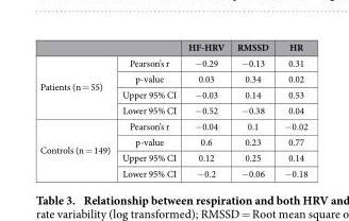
<table><thead><tr><td></td><td></td><td>HF-HRV</td><td>RMSSD</td><td>HR</td></tr></thead><tbody><tr><td rowspan="4">Patients (n = 55)</td><td>Pearson’s r</td><td>− 0.29</td><td>− 0.13</td><td>0.31</td></tr><tr><td>p-value</td><td>0.03</td><td>0.34</td><td>0.02</td></tr><tr><td>Upper 95% CI</td><td>− 0.03</td><td>0.14</td><td>0.53</td></tr><tr><td>Lower 95% CI</td><td>− 0.52</td><td>− 0.38</td><td>0.04</td></tr><tr><td rowspan="4">Controls (n = 149)</td><td>Pearson’s r</td><td>− 0.04</td><td>0.1</td><td>− 0.02</td></tr><tr><td>p-value</td><td>0.6</td><td>0.23</td><td>0.77</td></tr><tr><td>Upper 95% CI</td><td>0.12</td><td>0.25</td><td>0.14</td></tr><tr><td>Lower 95% CI</td><td>− 0.2</td><td>− 0.06</td><td>− 0.18</td></tr></tbody></table>